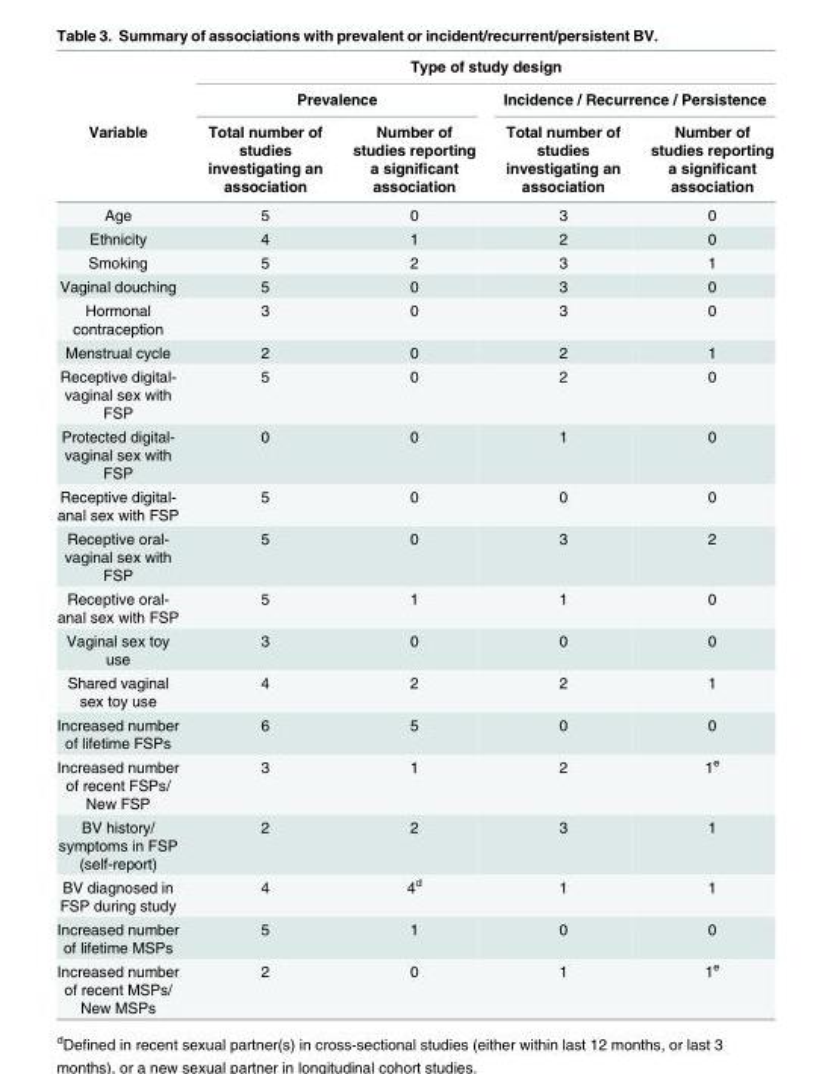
<table><thead><tr><td rowspan="3">Variable</td><td colspan="4">Type of study design</td></tr><tr><td colspan="2">Prevalence</td><td colspan="2">Incidence / Recurrence / Persistence</td></tr><tr><td>Total number of studies investigating an association</td><td>Number of studies reporting a significant association</td><td>Total number of studies investigating an association</td><td>Number of studies reporting a significant association</td></tr></thead><tbody><tr><td>Age</td><td>5</td><td>0</td><td>3</td><td>0</td></tr><tr><td>Ethnicity</td><td>4</td><td>1</td><td>2</td><td>0</td></tr><tr><td>Smoking</td><td>5</td><td>2</td><td>3</td><td>1</td></tr><tr><td>Vaginal douching</td><td>5</td><td>0</td><td>3</td><td>0</td></tr><tr><td>Hormonal contraception</td><td>3</td><td>0</td><td>3</td><td>0</td></tr><tr><td>Menstrual cycle</td><td>2</td><td>0</td><td>2</td><td>1</td></tr><tr><td>Receptive digital- vaginal sex with FSP</td><td>5</td><td>0</td><td>2</td><td>0</td></tr><tr><td>Protected digital- vaginal sex with FSP</td><td>0</td><td>0</td><td>1</td><td>0</td></tr><tr><td>Receptive digital- anal sex with FSP</td><td>5</td><td>0</td><td>0</td><td>0</td></tr><tr><td>Receptive oral- vaginal sex with FSP</td><td>5</td><td>0</td><td>3</td><td>2</td></tr><tr><td>Receptive oral- anal sex with FSP</td><td>5</td><td>1</td><td>1</td><td>0</td></tr><tr><td>Vaginal sex toy use</td><td>3</td><td>0</td><td>0</td><td>0</td></tr><tr><td>Shared vaginal sex toy use</td><td>4</td><td>2</td><td>2</td><td>1</td></tr><tr><td>Increased number of lifetime FSPs</td><td>6</td><td>5</td><td>0</td><td>0</td></tr><tr><td>Increased number of recent FSPs/ New FSP</td><td>3</td><td>1</td><td>2</td><td>1<sup>e</sup></td></tr><tr><td>BV history/ symptoms in FSP (self-report)</td><td>2</td><td>2</td><td>3</td><td>1</td></tr><tr><td>BV diagnosed in FSP during study</td><td>4</td><td>4<sup>d</sup></td><td>1</td><td>1</td></tr><tr><td>Increased number of lifetime MSPs</td><td>5</td><td>1</td><td>0</td><td>0</td></tr><tr><td>Increased number of recent MSPs/ New MSPs</td><td>2</td><td>0</td><td>1</td><td>1<sup>e</sup></td></tr></tbody></table>